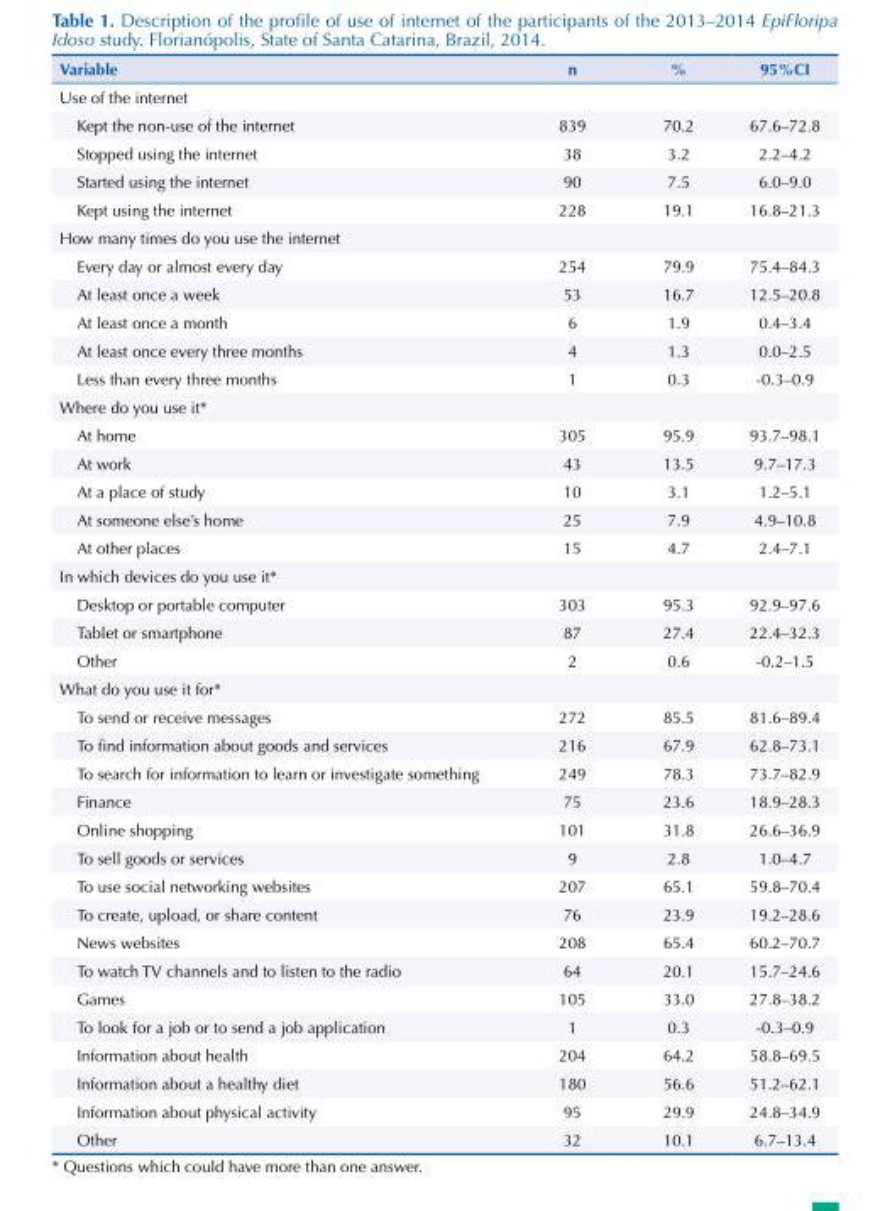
<table><thead><tr><td>Variable</td><td>n</td><td>%</td><td>95%CI</td></tr></thead><tbody><tr><td colspan="4">Use of the internet</td></tr><tr><td>Kept the non-use of the internet</td><td>839</td><td>70.2</td><td>67.6–72.8</td></tr><tr><td>Stopped using the internet</td><td>38</td><td>3.2</td><td>2.2–4.2</td></tr><tr><td>Started using the internet</td><td>90</td><td>7.5</td><td>6.0–9.0</td></tr><tr><td>Kept using the internet</td><td>228</td><td>19.1</td><td>16.8–21.3</td></tr><tr><td colspan="4">How many times do you use the internet</td></tr><tr><td>Every day or almost every day</td><td>254</td><td>79.9</td><td>75.4–84.3</td></tr><tr><td>At least once a week</td><td>53</td><td>16.7</td><td>12.5–20.8</td></tr><tr><td>At least once a month</td><td>6</td><td>1.9</td><td>0.4–3.4</td></tr><tr><td>At least once every three months</td><td>4</td><td>1.3</td><td>0.0–2.5</td></tr><tr><td>Less than every three months</td><td>1</td><td>0.3</td><td>-0.3–0.9</td></tr><tr><td colspan="4">Where do you use it*</td></tr><tr><td>At home</td><td>305</td><td>95.9</td><td>93.7–98.1</td></tr><tr><td>At work</td><td>43</td><td>13.5</td><td>9.7–17.3</td></tr><tr><td>At a place of study</td><td>10</td><td>3.1</td><td>1.2–5.1</td></tr><tr><td>At someone else’s home</td><td>25</td><td>7.9</td><td>4.9–10.8</td></tr><tr><td>At other places</td><td>15</td><td>4.7</td><td>2.4–7.1</td></tr><tr><td colspan="4">In which devices do you use it*</td></tr><tr><td>Desktop or portable computer</td><td>303</td><td>95.3</td><td>92.9–97.6</td></tr><tr><td>Tablet or smartphone</td><td>87</td><td>27.4</td><td>22.4–32.3</td></tr><tr><td>Other</td><td>2</td><td>0.6</td><td>-0.2–1.5</td></tr><tr><td colspan="4">What do you use it for*</td></tr><tr><td>To send or receive messages</td><td>272</td><td>85.5</td><td>81.6–89.4</td></tr><tr><td>To find information about goods and services</td><td>216</td><td>67.9</td><td>62.8–73.1</td></tr><tr><td>To search for information to learn or investigate something</td><td>249</td><td>78.3</td><td>73.7–82.9</td></tr><tr><td>Finance</td><td>75</td><td>23.6</td><td>18.9–28.3</td></tr><tr><td>Online shopping</td><td>101</td><td>31.8</td><td>26.6–36.9</td></tr><tr><td>To sell goods or services</td><td>9</td><td>2.8</td><td>1.0–4.7</td></tr><tr><td>To use social networking websites</td><td>207</td><td>65.1</td><td>59.8–70.4</td></tr><tr><td>To create, upload, or share content</td><td>76</td><td>23.9</td><td>19.2–28.6</td></tr><tr><td>News websites</td><td>208</td><td>65.4</td><td>60.2–70.7</td></tr><tr><td>To watch TV channels and to listen to the radio</td><td>64</td><td>20.1</td><td>15.7–24.6</td></tr><tr><td>Games</td><td>105</td><td>33.0</td><td>27.8–38.2</td></tr><tr><td>To look for a job or to send a job application</td><td>1</td><td>0.3</td><td>-0.3–0.9</td></tr><tr><td>Information about health</td><td>204</td><td>64.2</td><td>58.8–69.5</td></tr><tr><td>Information about a healthy diet</td><td>180</td><td>56.6</td><td>51.2–62.1</td></tr><tr><td>Information about physical activity</td><td>95</td><td>29.9</td><td>24.8–34.9</td></tr><tr><td>Other</td><td>32</td><td>10.1</td><td>6.7–13.4</td></tr></tbody></table>